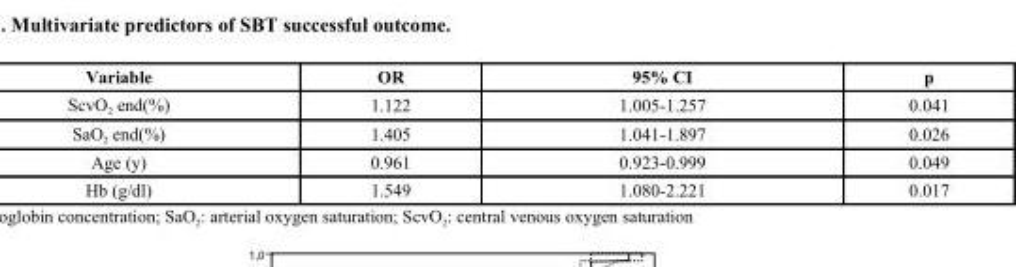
<table><thead><tr><td>Variable</td><td>OR</td><td>95% CI</td><td>p</td></tr></thead><tbody><tr><td>ScvO<sub>2</sub> end(%)</td><td>1.122</td><td>1.005-1.257</td><td>0.041</td></tr><tr><td>SaO<sub>2</sub> end(%)</td><td>1.405</td><td>1.041-1.897</td><td>0.026</td></tr><tr><td>Age (y)</td><td>0.961</td><td>0.923-0.999</td><td>0.049</td></tr><tr><td>Hb (g/dl)</td><td>1.549</td><td>1.080-2.221</td><td>0.017</td></tr></tbody></table>